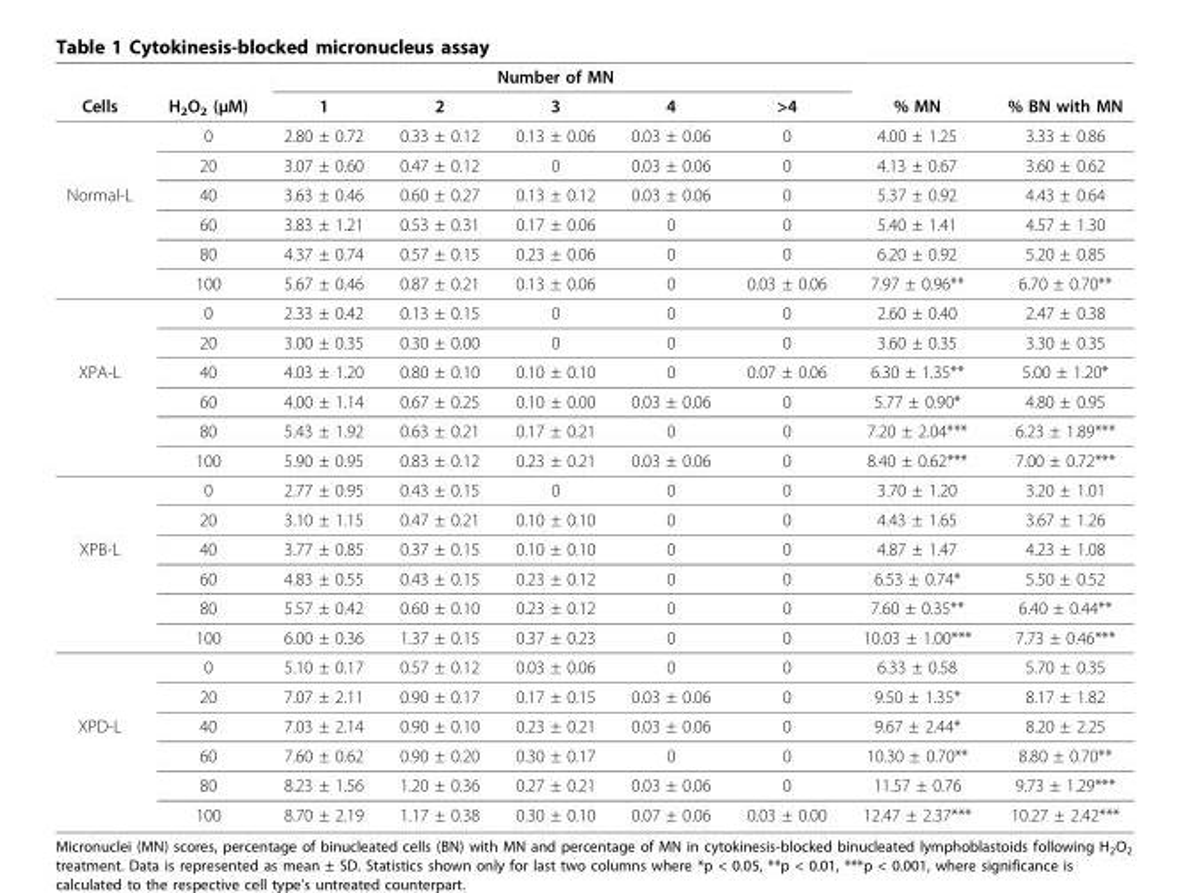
<table><thead><tr><td rowspan="2">Cells</td><td rowspan="2">H<sub>2</sub>O<sub>2</sub> (μM)</td><td colspan="5">Number of MN</td><td rowspan="2">% MN</td><td rowspan="2">% BN with MN</td></tr><tr><td>1</td><td>2</td><td>3</td><td>4</td><td>&gt;4</td></tr></thead><tbody><tr><td></td><td>0</td><td>2.80 ± 0.72</td><td>0.33 ± 0.12</td><td>0.13 ± 0.06</td><td>0.03 ± 0.06</td><td>0</td><td>4.00 ± 1.25</td><td>3.33 ± 0.86</td></tr><tr><td></td><td>20</td><td>3.07 ± 0.60</td><td>0.47 ± 0.12</td><td>0</td><td>0.03 ± 0.06</td><td>0</td><td>4.13 ± 0.67</td><td>3.60 ± 0.62</td></tr><tr><td rowspan="6">Normal-L</td><td>40</td><td>3.63 ± 0.46</td><td>0.60 ± 0.27</td><td>0.13 ± 0.12</td><td>0.03 ± 0.06</td><td>0</td><td>5.37 ± 0.92</td><td>4.43 ± 0.64</td></tr><tr><td>60</td><td>3.83 ± 1.21</td><td>0.53 ± 0.31</td><td>0.17 ± 0.06</td><td>0</td><td>0</td><td>5.40 ± 1.41</td><td>4.57 ± 1.30</td></tr><tr><td>80</td><td>4.37 ± 0.74</td><td>0.57 ± 0.15</td><td>0.23 ± 0.06</td><td>0</td><td>0</td><td>6.20 ± 0.92</td><td>5.20 ± 0.85</td></tr><tr><td>100</td><td>5.67 ± 0.46</td><td>0.87 ± 0.21</td><td>0.13 ± 0.06</td><td>0</td><td>0.03 ± 0.06</td><td>7.97 ± 0.96**</td><td>6.70 ± 0.70**</td></tr><tr><td>0</td><td>2.33 ± 0.42</td><td>0.13 ± 0.15</td><td>0</td><td>0</td><td>0</td><td>2.60 ± 0.40</td><td>2.47 ± 0.38</td></tr><tr><td>20</td><td>3.00 ± 0.35</td><td>0.30 ± 0.00</td><td>0</td><td>0</td><td>0</td><td>3.60 ± 0.35</td><td>3.30 ± 0.35</td></tr><tr><td rowspan="6">XPA-L</td><td>40</td><td>4.03 ± 1.20</td><td>0.80 ± 0.10</td><td>0.10 ± 0.10</td><td>0</td><td>0.07 ± 0.06</td><td>6.30 ± 1.35**</td><td>5.00 ± 1.20*</td></tr><tr><td>60</td><td>4.00 ± 1.14</td><td>0.67 ± 0.25</td><td>0.10 ± 0.00</td><td>0.03 ± 0.06</td><td>0</td><td>5.77 ± 0.90*</td><td>4.80 ± 0.95</td></tr><tr><td>80</td><td>5.43 ± 1.92</td><td>0.63 ± 0.21</td><td>0.17 ± 0.21</td><td>0</td><td>0</td><td>7.20 ± 2.04***</td><td>6.23 ± 1.89***</td></tr><tr><td>100</td><td>5.90 ± 0.95</td><td>0.83 ± 0.12</td><td>0.23 ± 0.21</td><td>0.03 ± 0.06</td><td>0</td><td>8.40 ± 0.62***</td><td>7.00 ± 0.72***</td></tr><tr><td>0</td><td>2.77 ± 0.95</td><td>0.43 ± 0.15</td><td>0</td><td>0</td><td>0</td><td>3.70 ± 1.20</td><td>3.20 ± 1.01</td></tr><tr><td>20</td><td>3.10 ± 1.15</td><td>0.47 ± 0.21</td><td>0.10 ± 0.10</td><td>0</td><td>0</td><td>4.43 ± 1.65</td><td>3.67 ± 1.26</td></tr><tr><td rowspan="6">XPB-L</td><td>40</td><td>3.77 ± 0.85</td><td>0.37 ± 0.15</td><td>0.10 ± 0.10</td><td>0</td><td>0</td><td>4.87 ± 1.47</td><td>4.23 ± 1.08</td></tr><tr><td>60</td><td>4.83 ± 0.55</td><td>0.43 ± 0.15</td><td>0.23 ± 0.12</td><td>0</td><td>0</td><td>6.53 ± 0.74*</td><td>5.50 ± 0.52</td></tr><tr><td>80</td><td>5.57 ± 0.42</td><td>0.60 ± 0.10</td><td>0.23 ± 0.12</td><td>0</td><td>0</td><td>7.60 ± 0.35**</td><td>6.40 ± 0.44**</td></tr><tr><td>100</td><td>6.00 ± 0.36</td><td>1.37 ± 0.15</td><td>0.37 ± 0.23</td><td>0</td><td>0</td><td>10.03 ± 1.00***</td><td>7.73 ± 0.46***</td></tr><tr><td>0</td><td>5.10 ± 0.17</td><td>0.57 ± 0.12</td><td>0.03 ± 0.06</td><td>0</td><td>0</td><td>6.33 ± 0.58</td><td>5.70 ± 0.35</td></tr><tr><td>20</td><td>7.07 ± 2.11</td><td>0.90 ± 0.17</td><td>0.17 ± 0.15</td><td>0.03 ± 0.06</td><td>0</td><td>9.50 ± 1.35*</td><td>8.17 ± 1.82</td></tr><tr><td rowspan="4">XPD-L</td><td>40</td><td>7.03 ± 2.14</td><td>0.90 ± 0.10</td><td>0.23 ± 0.21</td><td>0.03 ± 0.06</td><td>0</td><td>9.67 ± 2.44*</td><td>8.20 ± 2.25</td></tr><tr><td>60</td><td>7.60 ± 0.62</td><td>0.90 ± 0.20</td><td>0.30 ± 0.17</td><td>0</td><td>0</td><td>10.30 ± 0.70**</td><td>8.80 ± 0.70**</td></tr><tr><td>80</td><td>8.23 ± 1.56</td><td>1.20 ± 0.36</td><td>0.27 ± 0.21</td><td>0.03 ± 0.06</td><td>0</td><td>11.57 ± 0.76</td><td>9.73 ± 1.29***</td></tr><tr><td>100</td><td>8.70 ± 2.19</td><td>1.17 ± 0.38</td><td>0.30 ± 0.10</td><td>0.07 ± 0.06</td><td>0.03 ± 0.00</td><td>12.47 ± 2.37***</td><td>10.27 ± 2.42***</td></tr></tbody></table>